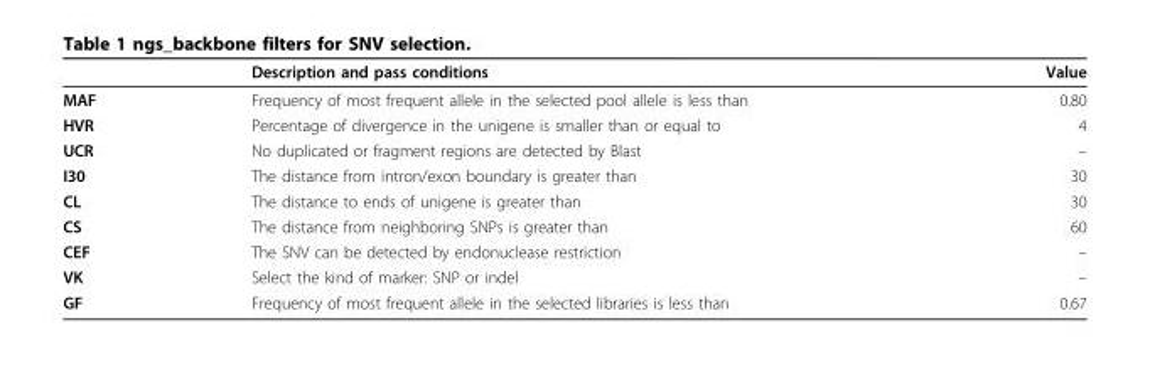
<table><thead><tr><td></td><td>Description and pass conditions</td><td>Value</td></tr></thead><tbody><tr><td>MAF</td><td>Frequency of most frequent allele in the selected pool allele is less than</td><td>0.80</td></tr><tr><td>HVR</td><td>Percentage of divergence in the unigene is smaller than or equal to</td><td>4</td></tr><tr><td>UCR</td><td>No duplicated or fragment regions are detected by Blast</td><td>–</td></tr><tr><td>I30</td><td>The distance from intron/exon boundary is greater than</td><td>30</td></tr><tr><td>CL</td><td>The distance to ends of unigene is greater than</td><td>30</td></tr><tr><td>CS</td><td>The distance from neighboring SNPs is greater than</td><td>60</td></tr><tr><td>CEF</td><td>The SNV can be detected by endonuclease restriction</td><td>–</td></tr><tr><td>VK</td><td>Select the kind of marker: SNP or indel</td><td>–</td></tr><tr><td>GF</td><td>Frequency of most frequent allele in the selected libraries is less than</td><td>0.67</td></tr></tbody></table>